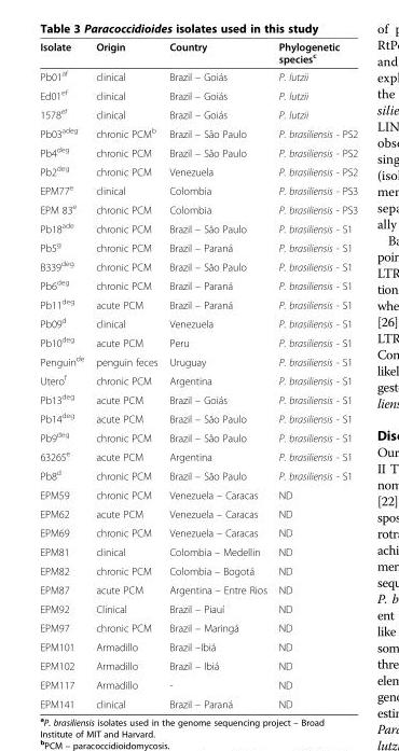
<table><thead><tr><td>Isolate</td><td>Origin</td><td>Country</td><td>Phylogenetic species<sup>c</sup></td></tr></thead><tbody><tr><td>Pb01<sup>af</sup></td><td>clinical</td><td>Brazil – Goiás</td><td>P. lutzii</td></tr><tr><td>Ed01<sup>ef</sup></td><td>clinical</td><td>Brazil – Goiás</td><td>P. lutzii</td></tr><tr><td>1578<sup>ef</sup></td><td>clinical</td><td>Brazil – Goiás</td><td>P. lutzii</td></tr><tr><td>Pb03<sup>adeg</sup></td><td>chronic PCM<sup>b</sup></td><td>Brazil – São Paulo</td><td>P. brasiliensis - PS2</td></tr><tr><td>Pb4<sup>deg</sup></td><td>chronic PCM</td><td>Brazil – São Paulo</td><td>P. brasiliensis - PS2</td></tr><tr><td>Pb2<sup>deg</sup></td><td>chronic PCM</td><td>Venezuela</td><td>P. brasiliensis - PS2</td></tr><tr><td>EPM77<sup>e</sup></td><td>clinical</td><td>Colombia</td><td>P. brasiliensis - PS3</td></tr><tr><td>EPM 83<sup>e</sup></td><td>chronic PCM</td><td>Colombia</td><td>P. brasiliensis - PS3</td></tr><tr><td>Pb18<sup>ade</sup></td><td>chronic PCM</td><td>Brazil – São Paulo</td><td>P. brasiliensis - S1</td></tr><tr><td>Pb5<sup>g</sup></td><td>chronic PCM</td><td>Brazil – Paraná</td><td>P. brasiliensis - S1</td></tr><tr><td>B339<sup>deg</sup></td><td>chronic PCM</td><td>Brazil – São Paulo</td><td>P. brasiliensis - S1</td></tr><tr><td>Pb6<sup>deg</sup></td><td>chronic PCM</td><td>Brazil – Paraná</td><td>P. brasiliensis - S1</td></tr><tr><td>Pb11<sup>deg</sup></td><td>acute PCM</td><td>Brazil – Paraná</td><td>P. brasiliensis - S1</td></tr><tr><td>Pb09<sup>d</sup></td><td>clinical</td><td>Venezuela</td><td>P. brasiliensis - S1</td></tr><tr><td>Pb10<sup>deg</sup></td><td>acute PCM</td><td>Peru</td><td>P. brasiliensis - S1</td></tr><tr><td>Penguin<sup>de</sup></td><td>penguin feces</td><td>Uruguay</td><td>P. brasiliensis - S1</td></tr><tr><td>Utero<sup>f</sup></td><td>chronic PCM</td><td>Argentina</td><td>P. brasiliensis - S1</td></tr><tr><td>Pb13<sup>deg</sup></td><td>acute PCM</td><td>Brazil – Goiás</td><td>P. brasiliensis - S1</td></tr><tr><td>Pb14<sup>deg</sup></td><td>acute PCM</td><td>Brazil – São Paulo</td><td>P. brasiliensis - S1</td></tr><tr><td>Pb9<sup>deg</sup></td><td>chronic PCM</td><td>Brazil – São Paulo</td><td>P. brasiliensis - S1</td></tr><tr><td>63265<sup>e</sup></td><td>acute PCM</td><td>Argentina</td><td>P. brasiliensis - S1</td></tr><tr><td>Pb8<sup>d</sup></td><td>chronic PCM</td><td>Brazil – São Paulo</td><td>P. brasiliensis - S1</td></tr><tr><td>EPM59</td><td>chronic PCM</td><td>Venezuela – Caracas</td><td>ND</td></tr><tr><td>EPM62</td><td>acute PCM</td><td>Venezuela – Caracas</td><td>ND</td></tr><tr><td>EPM69</td><td>chronic PCM</td><td>Venezuela – Caracas</td><td>ND</td></tr><tr><td>EPM81</td><td>clinical</td><td>Colombia – Medellin</td><td>ND</td></tr><tr><td>EPM82</td><td>chronic PCM</td><td>Colombia – Bogotá</td><td>ND</td></tr><tr><td>EPM87</td><td>acute PCM</td><td>Argentina – Entre Rios</td><td>ND</td></tr><tr><td>EPM92</td><td>Clinical</td><td>Brazil – Piauí</td><td>ND</td></tr><tr><td>EPM97</td><td>chronic PCM</td><td>Brazil – Maringá</td><td>ND</td></tr><tr><td>EPM101</td><td>Armadillo</td><td>Brazil –Ibiá</td><td>ND</td></tr><tr><td>EPM102</td><td>Armadillo</td><td>Brazil – Ibiá</td><td>ND</td></tr><tr><td>EPM117</td><td>Armadillo</td><td>-</td><td>ND</td></tr><tr><td>EPM141</td><td>clinical</td><td>Brazil – Paraná</td><td>ND</td></tr></tbody></table>